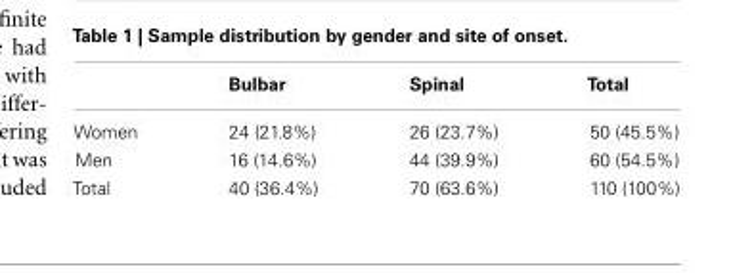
<table><thead><tr><td></td><td>Bulbar</td><td>Spinal</td><td>Total</td></tr></thead><tbody><tr><td>Women</td><td>24 (21.8%)</td><td>26 (23.7%)</td><td>50 (45.5%)</td></tr><tr><td>Men</td><td>16 (14.6%)</td><td>44 (39.9%)</td><td>60 (54.5%)</td></tr><tr><td>Total</td><td>40 (36.4%)</td><td>70 (63.6%)</td><td>110 (100%)</td></tr></tbody></table>